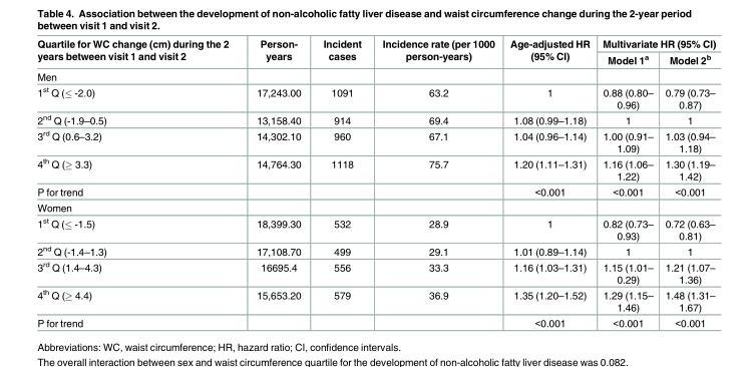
<table><thead><tr><td rowspan="2">Quartile for WC change (cm) during the 2 years between visit 1 and visit 2</td><td rowspan="2">Person- years</td><td rowspan="2">Incident cases</td><td rowspan="2">Incidence rate (per 1000 person-years)</td><td rowspan="2">Age-adjusted HR (95% CI)</td><td colspan="2">Multivariate HR (95% CI)</td></tr><tr><td>Model 1<sup>a</sup></td><td>Model 2<sup>b</sup></td></tr></thead><tbody><tr><td colspan="7">Men</td></tr><tr><td>1<sup>st</sup> Q (≤ -2.0)</td><td>17,243.00</td><td>1091</td><td>63.2</td><td>1</td><td>0.88 (0.80– 0.96)</td><td>0.79 (0.73– 0.87)</td></tr><tr><td>2<sup>nd</sup> Q (-1.9–0.5)</td><td>13,158.40</td><td>914</td><td>69.4</td><td>1.08 (0.99–1.18)</td><td>1</td><td>1</td></tr><tr><td>3<sup>rd</sup> Q (0.6–3.2)</td><td>14,302.10</td><td>960</td><td>67.1</td><td>1.04 (0.96–1.14)</td><td>1.00 (0.91– 1.09)</td><td>1.03 (0.94– 1.18)</td></tr><tr><td>4<sup>th</sup> Q (≥ 3.3)</td><td>14,764.30</td><td>1118</td><td>75.7</td><td>1.20 (1.11–1.31)</td><td>1.16 (1.06– 1.22)</td><td>1.30 (1.19– 1.42)</td></tr><tr><td>P for trend</td><td></td><td></td><td></td><td>&lt;0.001</td><td>&lt;0.001</td><td>&lt;0.001</td></tr><tr><td colspan="7">Women</td></tr><tr><td>1<sup>st</sup> Q (≤ -1.5)</td><td>18,399.30</td><td>532</td><td>28.9</td><td>1</td><td>0.82 (0.73– 0.93)</td><td>0.72 (0.63– 0.81)</td></tr><tr><td>2<sup>nd</sup> Q (-1.4–1.3)</td><td>17,108.70</td><td>499</td><td>29.1</td><td>1.01 (0.89–1.14)</td><td>1</td><td>1</td></tr><tr><td>3<sup>rd</sup> Q (1.4–4.3)</td><td>16695.4</td><td>556</td><td>33.3</td><td>1.16 (1.03–1.31)</td><td>1.15 (1.01– 0.29)</td><td>1.21 (1.07– 1.36)</td></tr><tr><td>4<sup>th</sup> Q (≥ 4.4)</td><td>15,653.20</td><td>579</td><td>36.9</td><td>1.35 (1.20–1.52)</td><td>1.29 (1.15– 1.46)</td><td>1.48 (1.31– 1.67)</td></tr><tr><td>P for trend</td><td></td><td></td><td></td><td>&lt;0.001</td><td>&lt;0.001</td><td>&lt;0.001</td></tr></tbody></table>